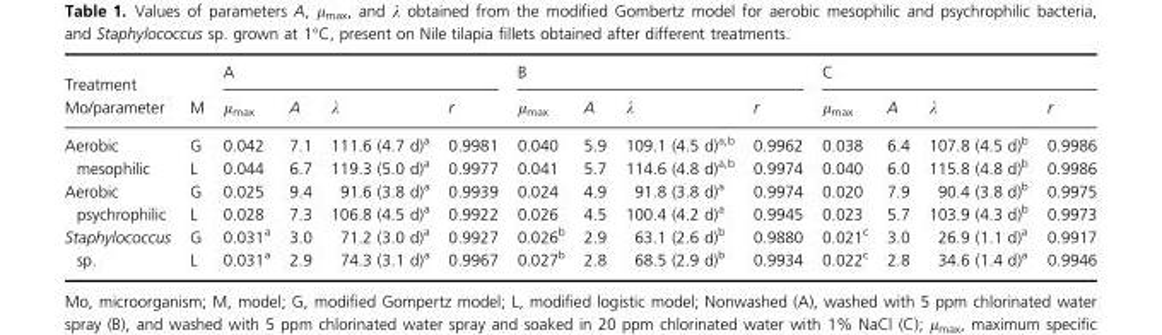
<table><thead><tr><td colspan="2">Treatment</td><td colspan="4">A</td><td colspan="4">B</td><td colspan="4">C</td></tr><tr><td>Mo/parameter</td><td>M</td><td>μ<sub>max</sub></td><td>A</td><td>λ</td><td>r</td><td>μ<sub>max</sub></td><td>A</td><td>λ</td><td>r</td><td>μ<sub>max</sub></td><td>A</td><td>λ</td><td>r</td></tr></thead><tbody><tr><td rowspan="2">Aerobic mesophilic</td><td>G</td><td>0.042</td><td>7.1</td><td>111.6 (4.7 d)<sup>a</sup></td><td>0.9981</td><td>0.040</td><td>5.9</td><td>109.1 (4.5 d)<sup>a,b</sup></td><td>0.9962</td><td>0.038</td><td>6.4</td><td>107.8 (4.5 d)<sup>b</sup></td><td>0.9986</td></tr><tr><td>L</td><td>0.044</td><td>6.7</td><td>119.3 (5.0 d)<sup>a</sup></td><td>0.9977</td><td>0.041</td><td>5.7</td><td>114.6 (4.8 d)<sup>a,b</sup></td><td>0.9974</td><td>0.040</td><td>6.0</td><td>115.8 (4.8 d)<sup>b</sup></td><td>0.9986</td></tr><tr><td rowspan="2">Aerobic psychrophilic</td><td>G</td><td>0.025</td><td>9.4</td><td>91.6 (3.8 d)<sup>a</sup></td><td>0.9939</td><td>0.024</td><td>4.9</td><td>91.8 (3.8 d)<sup>a</sup></td><td>0.9974</td><td>0.020</td><td>7.9</td><td>90.4 (3.8 d)<sup>b</sup></td><td>0.9975</td></tr><tr><td>L</td><td>0.028</td><td>7.3</td><td>106.8 (4.5 d)<sup>a</sup></td><td>0.9922</td><td>0.026</td><td>4.5</td><td>100.4 (4.2 d)<sup>a</sup></td><td>0.9945</td><td>0.023</td><td>5.7</td><td>103.9 (4.3 d)<sup>b</sup></td><td>0.9973</td></tr><tr><td rowspan="2">Staphylococcus sp.</td><td>G</td><td>0.031<sup>a</sup></td><td>3.0</td><td>71.2 (3.0 d)<sup>a</sup></td><td>0.9927</td><td>0.026<sup>b</sup></td><td>2.9</td><td>63.1 (2.6 d)<sup>b</sup></td><td>0.9880</td><td>0.021<sup>c</sup></td><td>3.0</td><td>26.9 (1.1 d)<sup>a</sup></td><td>0.9917</td></tr><tr><td>L</td><td>0.031<sup>a</sup></td><td>2.9</td><td>74.3 (3.1 d)<sup>a</sup></td><td>0.9967</td><td>0.027<sup>b</sup></td><td>2.8</td><td>68.5 (2.9 d)<sup>b</sup></td><td>0.9934</td><td>0.022<sup>c</sup></td><td>2.8</td><td>34.6 (1.4 d)<sup>a</sup></td><td>0.9946</td></tr></tbody></table>